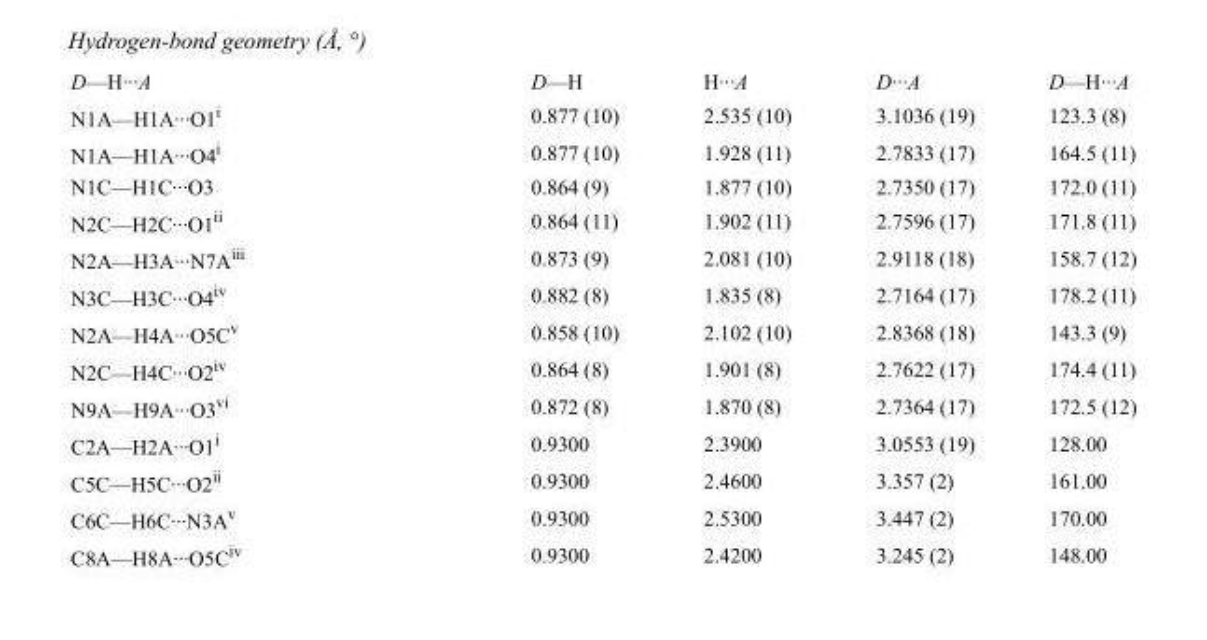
<table><tbody><tr><td>D—H···A</td><td>D—H</td><td>H···A</td><td>D···A</td><td>D—H···A</td></tr><tr><td>N1A—H1A···O1<sup>i</sup></td><td>0.877 (10)</td><td>2.535 (10)</td><td>3.1036 (19)</td><td>123.3 (8)</td></tr><tr><td>N1A—H1A···O4<sup>i</sup></td><td>0.877 (10)</td><td>1.928 (11)</td><td>2.7833 (17)</td><td>164.5 (11)</td></tr><tr><td>N1C—H1C···O3</td><td>0.864 (9)</td><td>1.877 (10)</td><td>2.7350 (17)</td><td>172.0 (11)</td></tr><tr><td>N2C—H2C···O1<sup>ii</sup></td><td>0.864 (11)</td><td>1.902 (11)</td><td>2.7596 (17)</td><td>171.8 (11)</td></tr><tr><td>N2A—H3A···N7A<sup>iii</sup></td><td>0.873 (9)</td><td>2.081 (10)</td><td>2.9118 (18)</td><td>158.7 (12)</td></tr><tr><td>N3C—H3C···O4<sup>iv</sup></td><td>0.882 (8)</td><td>1.835 (8)</td><td>2.7164 (17)</td><td>178.2 (11)</td></tr><tr><td>N2A—H4A···O5C<sup>v</sup></td><td>0.858 (10)</td><td>2.102 (10)</td><td>2.8368 (18)</td><td>143.3 (9)</td></tr><tr><td>N2C—H4C···O2<sup>iv</sup></td><td>0.864 (8)</td><td>1.901 (8)</td><td>2.7622 (17)</td><td>174.4 (11)</td></tr><tr><td>N9A—H9A···O3<sup>vi</sup></td><td>0.872 (8)</td><td>1.870 (8)</td><td>2.7364 (17)</td><td>172.5 (12)</td></tr><tr><td>C2A—H2A···O1<sup>i</sup></td><td>0.9300</td><td>2.3900</td><td>3.0553 (19)</td><td>128.00</td></tr><tr><td>C5C—H5C···O2<sup>ii</sup></td><td>0.9300</td><td>2.4600</td><td>3.357 (2)</td><td>161.00</td></tr><tr><td>C6C—H6C···N3A<sup>v</sup></td><td>0.9300</td><td>2.5300</td><td>3.447 (2)</td><td>170.00</td></tr><tr><td>C8A—H8A···O5C<sup>iv</sup></td><td>0.9300</td><td>2.4200</td><td>3.245 (2)</td><td>148.00</td></tr></tbody></table>